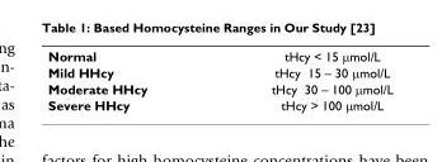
<table><tbody><tr><td>Normal</td><td>tHcy &lt; 15 µmol/L</td></tr><tr><td>Mild HHcy</td><td>tHcy 15 – 30 µmol/L</td></tr><tr><td>Moderate HHcy</td><td>tHcy 30 – 100 µmol/L</td></tr><tr><td>Severe HHcy</td><td>tHcy &gt; 100 µmol/L</td></tr></tbody></table>